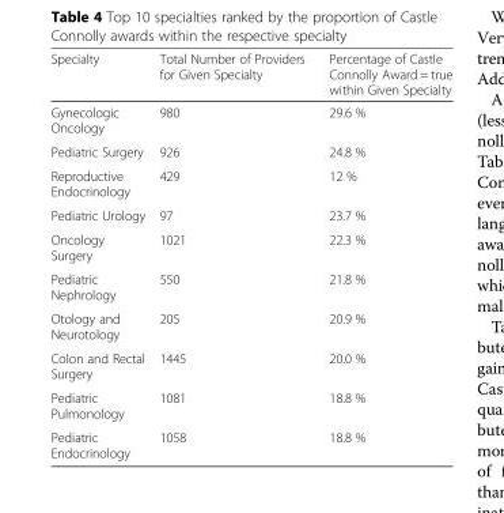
<table><thead><tr><td>Specialty</td><td>Total Number of Providers for Given Specialty</td><td>Percentage of Castle Connolly Award = true within Given Specialty</td></tr></thead><tbody><tr><td>Gynecologic Oncology</td><td>980</td><td>29.6 %</td></tr><tr><td>Pediatric Surgery</td><td>926</td><td>24.8 %</td></tr><tr><td>Reproductive Endocrinology</td><td>429</td><td>12 %</td></tr><tr><td>Pediatric Urology</td><td>97</td><td>23.7 %</td></tr><tr><td>Oncology Surgery</td><td>1021</td><td>22.3 %</td></tr><tr><td>Pediatric Nephrology</td><td>550</td><td>21.8 %</td></tr><tr><td>Otology and Neurotology</td><td>205</td><td>20.9 %</td></tr><tr><td>Colon and Rectal Surgery</td><td>1445</td><td>20.0 %</td></tr><tr><td>Pediatric Pulmonology</td><td>1081</td><td>18.8 %</td></tr><tr><td>Pediatric Endocrinology</td><td>1058</td><td>18.8 %</td></tr></tbody></table>